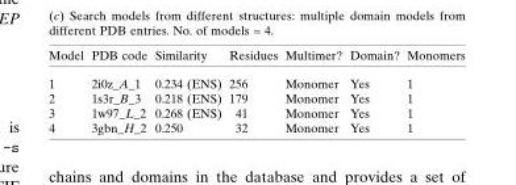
<table><thead><tr><td>Model</td><td>PDB code</td><td>Similarity</td><td>Residues</td><td>Multimer?</td><td>Domain?</td><td>Monomers</td></tr></thead><tbody><tr><td>1</td><td>2i0z_A_1</td><td>0.234 (ENS)</td><td>256</td><td>Monomer</td><td>Yes</td><td>1</td></tr><tr><td>2</td><td>1s3r_B_3</td><td>0.218 (ENS)</td><td>179</td><td>Monomer</td><td>Yes</td><td>1</td></tr><tr><td>3</td><td>1w97_L_2</td><td>0.268 (ENS)</td><td>41</td><td>Monomer</td><td>Yes</td><td>1</td></tr><tr><td>4</td><td>3gbn_H_2</td><td>0.250</td><td>32</td><td>Monomer</td><td>Yes</td><td>1</td></tr></tbody></table>